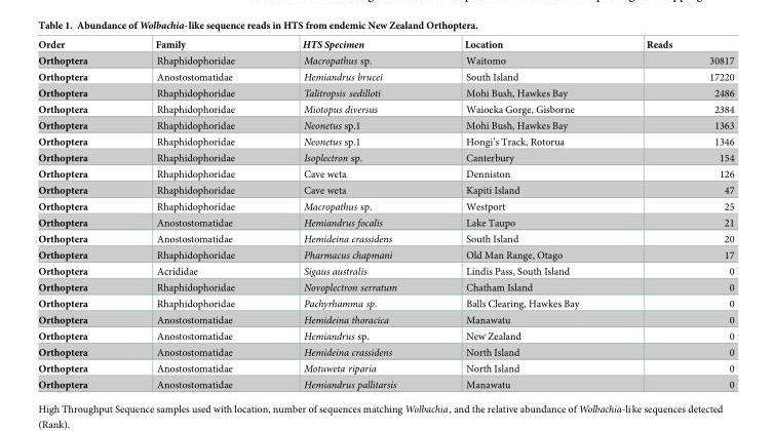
<table><thead><tr><td>Order</td><td>Family</td><td>HTS Specimen</td><td>Location</td><td>Reads</td></tr></thead><tbody><tr><td>Orthoptera</td><td>Rhaphidophoridae</td><td>Macropathus sp.</td><td>Waitomo</td><td>30817</td></tr><tr><td>Orthoptera</td><td>Anostostomatidae</td><td>Hemiandrus brucei</td><td>South Island</td><td>17220</td></tr><tr><td>Orthoptera</td><td>Rhaphidophoridae</td><td>Talitropsis sedilloti</td><td>Mohi Bush, Hawkes Bay</td><td>2486</td></tr><tr><td>Orthoptera</td><td>Rhaphidophoridae</td><td>Miotopus diversus</td><td>Waioeka Gorge, Gisborne</td><td>2384</td></tr><tr><td>Orthoptera</td><td>Rhaphidophoridae</td><td>Neonetus sp.1</td><td>Mohi Bush, Hawkes Bay</td><td>1363</td></tr><tr><td>Orthoptera</td><td>Rhaphidophoridae</td><td>Neonetus sp.1</td><td>Hongi’s Track, Rotorua</td><td>1346</td></tr><tr><td>Orthoptera</td><td>Rhaphidophoridae</td><td>Isoplectron sp.</td><td>Canterbury</td><td>154</td></tr><tr><td>Orthoptera</td><td>Rhaphidophoridae</td><td>Cave weta</td><td>Denniston</td><td>126</td></tr><tr><td>Orthoptera</td><td>Rhaphidophoridae</td><td>Cave weta</td><td>Kapiti Island</td><td>47</td></tr><tr><td>Orthoptera</td><td>Rhaphidophoridae</td><td>Macropathus sp.</td><td>Westport</td><td>25</td></tr><tr><td>Orthoptera</td><td>Anostostomatidae</td><td>Hemiandrus focalis</td><td>Lake Taupo</td><td>21</td></tr><tr><td>Orthoptera</td><td>Anostostomatidae</td><td>Hemideina crassidens</td><td>South Island</td><td>20</td></tr><tr><td>Orthoptera</td><td>Rhaphidophoridae</td><td>Pharmacus chapmani</td><td>Old Man Range, Otago</td><td>17</td></tr><tr><td>Orthoptera</td><td>Acrididae</td><td>Sigaus australis</td><td>Lindis Pass, South Island</td><td>0</td></tr><tr><td>Orthoptera</td><td>Rhaphidophoridae</td><td>Novoplectron serratum</td><td>Chatham Island</td><td>0</td></tr><tr><td>Orthoptera</td><td>Rhaphidophoridae</td><td>Pachyrhamma sp.</td><td>Balls Clearing, Hawkes Bay</td><td>0</td></tr><tr><td>Orthoptera</td><td>Anostostomatidae</td><td>Hemideina thoracica</td><td>Manawatu</td><td>0</td></tr><tr><td>Orthoptera</td><td>Anostostomatidae</td><td>Hemiandrus sp.</td><td>New Zealand</td><td>0</td></tr><tr><td>Orthoptera</td><td>Anostostomatidae</td><td>Hemideina crassidens</td><td>North Island</td><td>0</td></tr><tr><td>Orthoptera</td><td>Anostostomatidae</td><td>Motuweta riparia</td><td>North Island</td><td>0</td></tr><tr><td>Orthoptera</td><td>Anostostomatidae</td><td>Hemiandrus pallitarsis</td><td>Manawatu</td><td>0</td></tr></tbody></table>